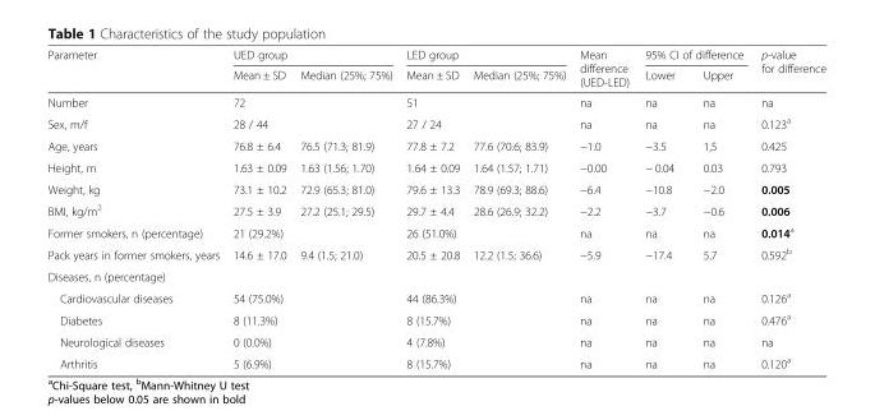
<table><thead><tr><td rowspan="2">Parameter</td><td colspan="2">UED group</td><td colspan="2">LED group</td><td rowspan="2">Mean difference (UED-LED)</td><td colspan="2">95% CI of difference</td><td rowspan="2">p-value for difference</td></tr><tr><td>Mean ± SD</td><td>Median (25%; 75%)</td><td>Mean ± SD</td><td>Median (25%; 75%)</td><td>Lower</td><td>Upper</td></tr></thead><tbody><tr><td>Number</td><td colspan="2">72</td><td colspan="2">51</td><td>na</td><td>na</td><td>na</td><td>na</td></tr><tr><td>Sex, m/f</td><td colspan="2">28 / 44</td><td colspan="2">27 / 24</td><td>na</td><td>na</td><td>na</td><td>0.123<sup>a</sup></td></tr><tr><td>Age, years</td><td>76.8 ± 6.4</td><td>76.5 (71.3; 81.9)</td><td>77.8 ± 7.2</td><td>77.6 (70.6; 83.9)</td><td>−1.0</td><td>−3.5</td><td>1,5</td><td>0.425</td></tr><tr><td>Height, m</td><td>1.63 ± 0.09</td><td>1.63 (1.56; 1.70)</td><td>1.64 ± 0.09</td><td>1.64 (1.57; 1.71)</td><td>−0.00</td><td>− 0.04</td><td>0.03</td><td>0.793</td></tr><tr><td>Weight, kg</td><td>73.1 ± 10.2</td><td>72.9 (65.3; 81.0)</td><td>79.6 ± 13.3</td><td>78.9 (69.3; 88.6)</td><td>−6.4</td><td>−10.8</td><td>−2.0</td><td>0.005</td></tr><tr><td>BMI, kg/m<sup>2</sup></td><td>27.5 ± 3.9</td><td>27.2 (25.1; 29.5)</td><td>29.7 ± 4.4</td><td>28.6 (26.9; 32.2)</td><td>−2.2</td><td>−3.7</td><td>−0.6</td><td>0.006</td></tr><tr><td>Former smokers, n (percentage)</td><td colspan="2">21 (29.2%)</td><td colspan="2">26 (51.0%)</td><td>na</td><td>na</td><td>na</td><td>0.014<sup>a</sup></td></tr><tr><td>Pack years in former smokers, years</td><td>14.6 ± 17.0</td><td>9.4 (1.5; 21.0)</td><td>20.5 ± 20.8</td><td>12.2 (1.5; 36.6)</td><td>−5.9</td><td>−17.4</td><td>5.7</td><td>0.592<sup>b</sup></td></tr><tr><td colspan="9">Diseases, n (percentage)</td></tr><tr><td>Cardiovascular diseases</td><td colspan="2">54 (75.0%)</td><td colspan="2">44 (86.3%)</td><td>na</td><td>na</td><td>na</td><td>0.126<sup>a</sup></td></tr><tr><td>Diabetes</td><td colspan="2">8 (11.3%)</td><td colspan="2">8 (15.7%)</td><td>na</td><td>na</td><td>na</td><td>0.476<sup>a</sup></td></tr><tr><td>Neurological diseases</td><td colspan="2">0 (0.0%)</td><td colspan="2">4 (7.8%)</td><td>na</td><td>na</td><td>na</td><td>na</td></tr><tr><td>Arthritis</td><td colspan="2">5 (6.9%)</td><td colspan="2">8 (15.7%)</td><td>na</td><td>na</td><td>na</td><td>0.120<sup>a</sup></td></tr></tbody></table>